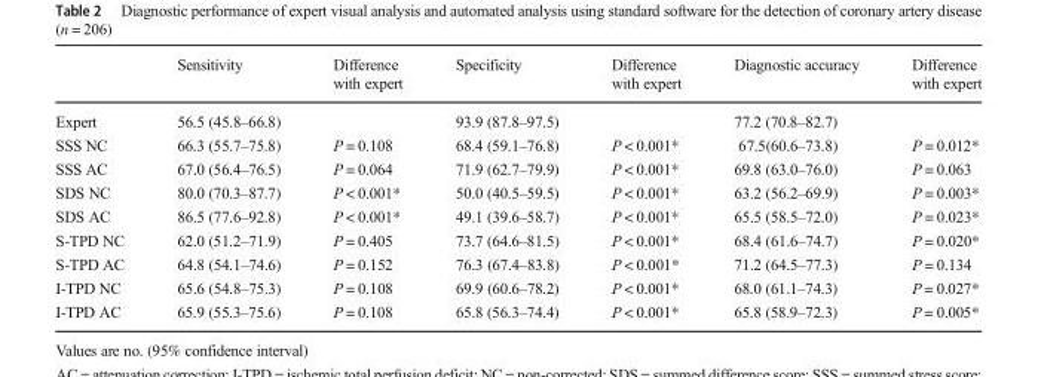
<table><thead><tr><td></td><td>Sensitivity</td><td>Difference with expert</td><td>Specificity</td><td>Difference with expert</td><td>Diagnostic accuracy</td><td>Difference with expert</td></tr></thead><tbody><tr><td>Expert</td><td>56.5 (45.8–66.8)</td><td></td><td>93.9 (87.8–97.5)</td><td></td><td>77.2 (70.8–82.7)</td><td></td></tr><tr><td>SSS NC</td><td>66.3 (55.7–75.8)</td><td>P = 0.108</td><td>68.4 (59.1–76.8)</td><td>P &lt; 0.001*</td><td>67.5(60.6–73.8)</td><td>P = 0.012*</td></tr><tr><td>SSS AC</td><td>67.0 (56.4–76.5)</td><td>P = 0.064</td><td>71.9 (62.7–79.9)</td><td>P &lt; 0.001*</td><td>69.8 (63.0–76.0)</td><td>P = 0.063</td></tr><tr><td>SDS NC</td><td>80.0 (70.3–87.7)</td><td>P &lt; 0.001*</td><td>50.0 (40.5–59.5)</td><td>P &lt; 0.001*</td><td>63.2 (56.2–69.9)</td><td>P = 0.003*</td></tr><tr><td>SDS AC</td><td>86.5 (77.6–92.8)</td><td>P &lt; 0.001*</td><td>49.1 (39.6–58.7)</td><td>P &lt; 0.001*</td><td>65.5 (58.5–72.0)</td><td>P = 0.023*</td></tr><tr><td>S-TPD NC</td><td>62.0 (51.2–71.9)</td><td>P = 0.405</td><td>73.7 (64.6–81.5)</td><td>P &lt; 0.001*</td><td>68.4 (61.6–74.7)</td><td>P = 0.020*</td></tr><tr><td>S-TPD AC</td><td>64.8 (54.1–74.6)</td><td>P = 0.152</td><td>76.3 (67.4–83.8)</td><td>P &lt; 0.001*</td><td>71.2 (64.5–77.3)</td><td>P = 0.134</td></tr><tr><td>I-TPD NC</td><td>65.6 (54.8–75.3)</td><td>P = 0.108</td><td>69.9 (60.6–78.2)</td><td>P &lt; 0.001*</td><td>68.0 (61.1–74.3)</td><td>P = 0.027*</td></tr><tr><td>I-TPD AC</td><td>65.9 (55.3–75.6)</td><td>P = 0.108</td><td>65.8 (56.3–74.4)</td><td>P &lt; 0.001*</td><td>65.8 (58.9–72.3)</td><td>P = 0.005*</td></tr></tbody></table>